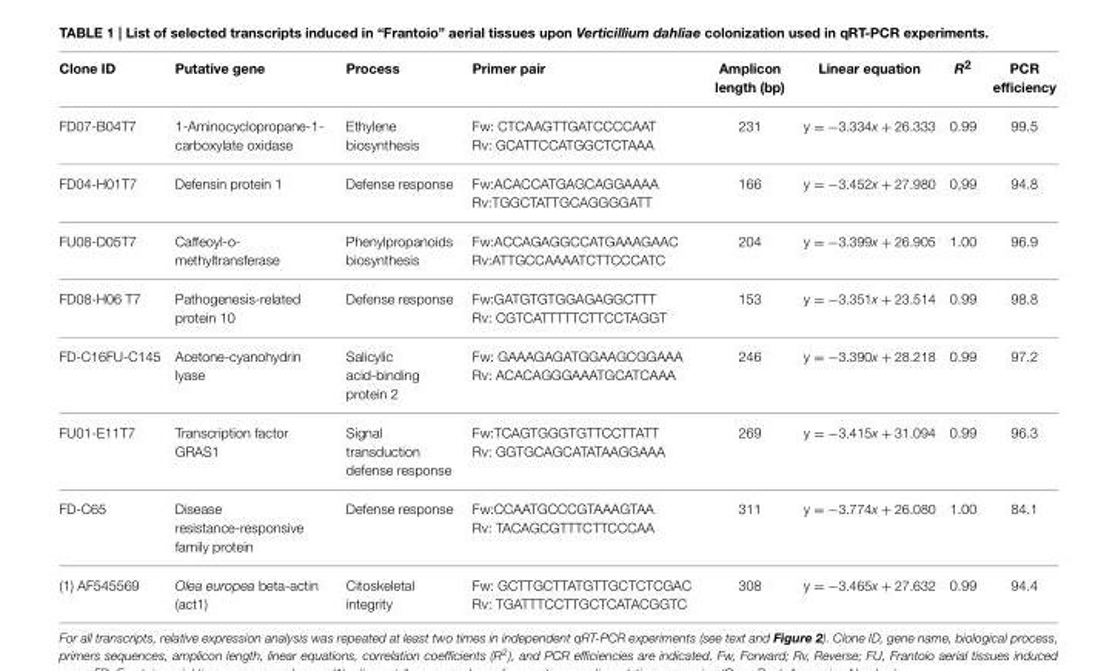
<table><thead><tr><td>Clone ID</td><td>Putative gene</td><td>Process</td><td>Primer pair</td><td>Amplicon length (bp)</td><td>Linear equation</td><td>R<sup>2</sup></td><td>PCR efficiency</td></tr></thead><tbody><tr><td>FD07-B04T7</td><td>1-Aminocyclopropane-1- carboxylate oxidase</td><td>Ethylene biosynthesis</td><td>Fw: CTCAAGTTGATCCCCAAT Rv: GCATTCCATGGCTCTAAA</td><td>231</td><td>y = −3.334x + 26.333</td><td>0.99</td><td>99.5</td></tr><tr><td>FD04-H01T7</td><td>Defensin protein 1</td><td>Defense response</td><td>Fw:ACACCATGAGCAGGAAAA Rv:TGGCTATTGCAGGGGATT</td><td>166</td><td>y = −3.452x + 27.980</td><td>0,99</td><td>94.8</td></tr><tr><td>FU08-D05T7</td><td>Caffeoyl-o- methyltransferase</td><td>Phenylpropanoids biosynthesis</td><td>Fw:ACCAGAGGCCATGAAAGAAC Rv:ATTGCCAAAATCTTCCCATC</td><td>204</td><td>y = −3.399x + 26.905</td><td>1.00</td><td>96.9</td></tr><tr><td>FD08-H06 T7</td><td>Pathogenesis-related protein 10</td><td>Defense response</td><td>Fw:GATGTGTGGAGAGGCTTT Rv: CGTCATTTTTCTTCCTAGGT</td><td>153</td><td>y = −3.351x + 23.514</td><td>0.99</td><td>98.8</td></tr><tr><td>FD-C16FU-C145</td><td>Acetone-cyanohydrin lyase</td><td>Salicylic acid-binding protein 2</td><td>Fw: GAAAGAGATGGAAGCGGAAA Rv: ACACAGGGAAATGCATCAAA</td><td>246</td><td>y = −3.390x + 28.218</td><td>0.99</td><td>97.2</td></tr><tr><td>FU01-E11T7</td><td>Transcription factor GRAS1</td><td>Signal transduction defense response</td><td>Fw:TCAGTGGGTGTTCCTTATT Rv: GGTGCAGCATATAAGGAAA</td><td>269</td><td>y = −3.415x + 31.094</td><td>0.99</td><td>96.3</td></tr><tr><td>FD-C65</td><td>Disease resistance-responsive family protein</td><td>Defense response</td><td>Fw:CCAATGCCCGTAAAGTAA Rv: TACAGCGTTTCTTCCCAA</td><td>311</td><td>y = −3.774x + 26.080</td><td>1.00</td><td>84.1</td></tr><tr><td>(1) AF545569</td><td>Olea europea beta-actin (act1)</td><td>Citoskeletal integrity</td><td>Fw: GCTTGCTTATGTTGCTCTCGAC Rv: TGATTTCCTTGCTCATACGGTC</td><td>308</td><td>y = −3.465x + 27.632</td><td>0.99</td><td>94.4</td></tr></tbody></table>